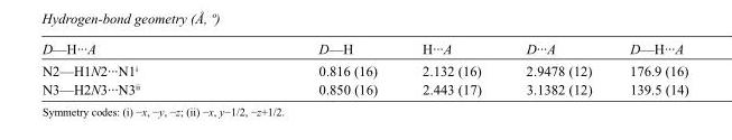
<table><tbody><tr><td>D—H···A</td><td>D—H</td><td>H···A</td><td>D···A</td><td>D—H···A</td></tr><tr><td>N2—H1N2···N1<sup>i</sup></td><td>0.816 (16)</td><td>2.132 (16)</td><td>2.9478 (12)</td><td>176.9 (16)</td></tr><tr><td>N3—H2N3···N3<sup>ii</sup></td><td>0.850 (16)</td><td>2.443 (17)</td><td>3.1382 (12)</td><td>139.5 (14)</td></tr></tbody></table>